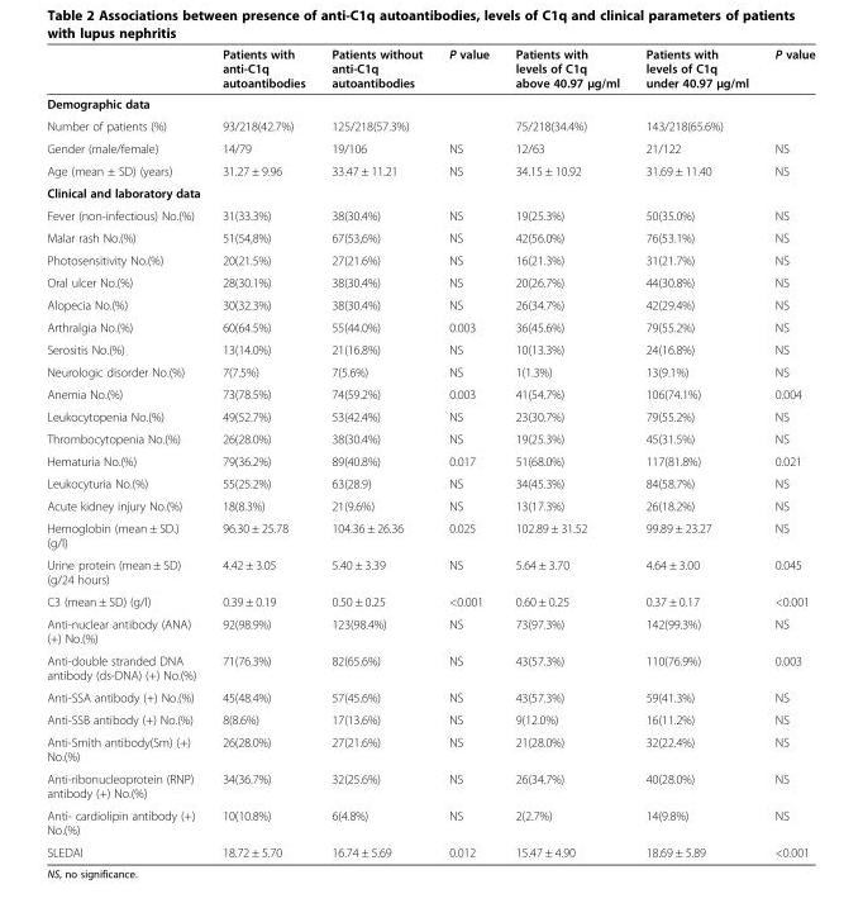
<table><thead><tr><td></td><td>Patients with anti-C1q autoantibodies</td><td>Patients without anti-C1q autoantibodies</td><td>P value</td><td>Patients with levels of C1q above 40.97 μg/ml</td><td>Patients with levels of C1q under 40.97 μg/ml</td><td>P value</td></tr></thead><tbody><tr><td colspan="7">Demographic data</td></tr><tr><td>Number of patients (%)</td><td>93/218(42.7%)</td><td>125/218(57.3%)</td><td></td><td>75/218(34.4%)</td><td>143/218(65.6%)</td><td></td></tr><tr><td>Gender (male/female)</td><td>14/79</td><td>19/106</td><td>NS</td><td>12/63</td><td>21/122</td><td>NS</td></tr><tr><td>Age (mean ± SD) (years)</td><td>31.27 ± 9.96</td><td>33.47 ± 11.21</td><td>NS</td><td>34.15 ± 10.92</td><td>31.69 ± 11.40</td><td>NS</td></tr><tr><td colspan="7">Clinical and laboratory data</td></tr><tr><td>Fever (non-infectious) No.(%)</td><td>31(33.3%)</td><td>38(30.4%)</td><td>NS</td><td>19(25.3%)</td><td>50(35.0%)</td><td>NS</td></tr><tr><td>Malar rash No.(%)</td><td>51(54,8%)</td><td>67(53,6%)</td><td>NS</td><td>42(56.0%)</td><td>76(53.1%)</td><td>NS</td></tr><tr><td>Photosensitivity No.(%)</td><td>20(21.5%)</td><td>27(21.6%)</td><td>NS</td><td>16(21.3%)</td><td>31(21.7%)</td><td>NS</td></tr><tr><td>Oral ulcer No.(%)</td><td>28(30.1%)</td><td>38(30.4%)</td><td>NS</td><td>20(26.7%)</td><td>44(30.8%)</td><td>NS</td></tr><tr><td>Alopecia No.(%)</td><td>30(32.3%)</td><td>38(30.4%)</td><td>NS</td><td>26(34.7%)</td><td>42(29.4%)</td><td>NS</td></tr><tr><td>Arthralgia No.(%)</td><td>60(64.5%)</td><td>55(44.0%)</td><td>0.003</td><td>36(45.6%)</td><td>79(55.2%)</td><td>NS</td></tr><tr><td>Serositis No.(%)</td><td>13(14.0%)</td><td>21(16.8%)</td><td>NS</td><td>10(13.3%)</td><td>24(16.8%)</td><td>NS</td></tr><tr><td>Neurologic disorder No.(%)</td><td>7(7.5%)</td><td>7(5.6%)</td><td>NS</td><td>1(1.3%)</td><td>13(9.1%)</td><td>NS</td></tr><tr><td>Anemia No.(%)</td><td>73(78.5%)</td><td>74(59.2%)</td><td>0.003</td><td>41(54.7%)</td><td>106(74.1%)</td><td>0.004</td></tr><tr><td>Leukocytopenia No.(%)</td><td>49(52.7%)</td><td>53(42.4%)</td><td>NS</td><td>23(30.7%)</td><td>79(55.2%)</td><td>NS</td></tr><tr><td>Thrombocytopenia No.(%)</td><td>26(28.0%)</td><td>38(30.4%)</td><td>NS</td><td>19(25.3%)</td><td>45(31.5%)</td><td>NS</td></tr><tr><td>Hematuria No.(%)</td><td>79(36.2%)</td><td>89(40.8%)</td><td>0.017</td><td>51(68.0%)</td><td>117(81.8%)</td><td>0.021</td></tr><tr><td>Leukocyturia No.(%)</td><td>55(25.2%)</td><td>63(28.9)</td><td>NS</td><td>34(45.3%)</td><td>84(58.7%)</td><td>NS</td></tr><tr><td>Acute kidney injury No.(%)</td><td>18(8.3%)</td><td>21(9.6%)</td><td>NS</td><td>13(17.3%)</td><td>26(18.2%)</td><td>NS</td></tr><tr><td>Hemoglobin (mean ± SD.) (g/l)</td><td>96.30 ± 25.78</td><td>104.36 ± 26.36</td><td>0.025</td><td>102.89 ± 31.52</td><td>99.89 ± 23.27</td><td>NS</td></tr><tr><td>Urine protein (mean ± SD) (g/24 hours)</td><td>4.42 ± 3.05</td><td>5.40 ± 3.39</td><td>NS</td><td>5.64 ± 3.70</td><td>4.64 ± 3.00</td><td>0.045</td></tr><tr><td>C3 (mean ± SD) (g/l)</td><td>0.39 ± 0.19</td><td>0.50 ± 0.25</td><td>&lt;0.001</td><td>0.60 ± 0.25</td><td>0.37 ± 0.17</td><td>&lt;0.001</td></tr><tr><td>Anti-nuclear antibody (ANA) (+) No.(%)</td><td>92(98.9%)</td><td>123(98.4%)</td><td>NS</td><td>73(97.3%)</td><td>142(99.3%)</td><td>NS</td></tr><tr><td>Anti-double stranded DNA antibody (ds-DNA) (+) No.(%)</td><td>71(76.3%)</td><td>82(65.6%)</td><td>NS</td><td>43(57.3%)</td><td>110(76.9%)</td><td>0.003</td></tr><tr><td>Anti-SSA antibody (+) No.(%)</td><td>45(48.4%)</td><td>57(45.6%)</td><td>NS</td><td>43(57.3%)</td><td>59(41.3%)</td><td>NS</td></tr><tr><td>Anti-SSB antibody (+) No.(%)</td><td>8(8.6%)</td><td>17(13.6%)</td><td>NS</td><td>9(12.0%)</td><td>16(11.2%)</td><td>NS</td></tr><tr><td>Anti-Smith antibody(Sm) (+) No.(%)</td><td>26(28.0%)</td><td>27(21.6%)</td><td>NS</td><td>21(28.0%)</td><td>32(22.4%)</td><td>NS</td></tr><tr><td>Anti-ribonucleoprotein (RNP) antibody (+) No.(%)</td><td>34(36.7%)</td><td>32(25.6%)</td><td>NS</td><td>26(34.7%)</td><td>40(28.0%)</td><td>NS</td></tr><tr><td>Anti- cardiolipin antibody (+) No.(%)</td><td>10(10.8%)</td><td>6(4.8%)</td><td>NS</td><td>2(2.7%)</td><td>14(9.8%)</td><td>NS</td></tr><tr><td>SLEDAI</td><td>18.72 ± 5.70</td><td>16.74 ± 5.69</td><td>0.012</td><td>15.47 ± 4.90</td><td>18.69 ± 5.89</td><td>&lt;0.001</td></tr></tbody></table>